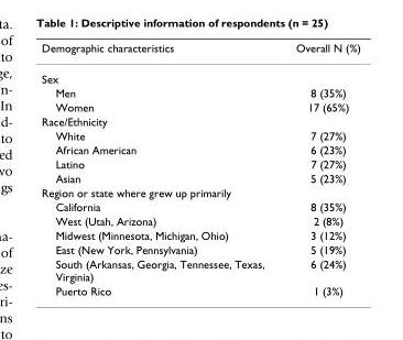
<table><thead><tr><td>Demographic characteristics</td><td>Overall N (%)</td></tr></thead><tbody><tr><td colspan="2">Sex</td></tr><tr><td>Men</td><td>8 (35%)</td></tr><tr><td>Women</td><td>17 (65%)</td></tr><tr><td colspan="2">Race/Ethnicity</td></tr><tr><td>White</td><td>7 (27%)</td></tr><tr><td>African American</td><td>6 (23%)</td></tr><tr><td>Latino</td><td>7 (27%)</td></tr><tr><td>Asian</td><td>5 (23%)</td></tr><tr><td colspan="2">Region or state where grew up primarily</td></tr><tr><td>California</td><td>8 (35%)</td></tr><tr><td>West (Utah, Arizona)</td><td>2 (8%)</td></tr><tr><td>Midwest (Minnesota, Michigan, Ohio)</td><td>3 (12%)</td></tr><tr><td>East (New York, Pennsylvania)</td><td>5 (19%)</td></tr><tr><td>South (Arkansas, Georgia, Tennessee, Texas, Virginia)</td><td>6 (24%)</td></tr><tr><td>Puerto Rico</td><td>1 (3%)</td></tr></tbody></table>